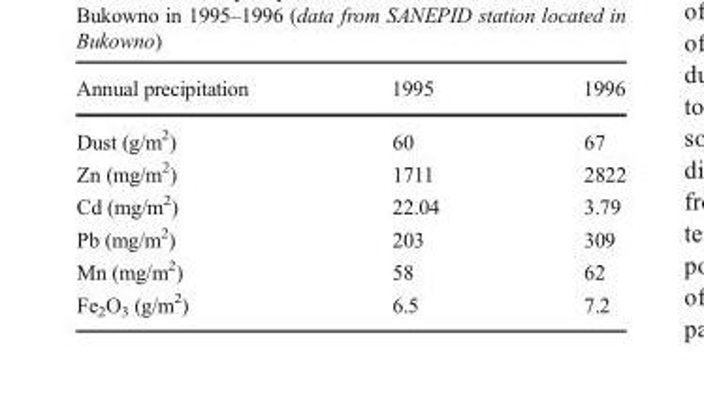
<table><thead><tr><td>Annual precipitation</td><td>1995</td><td>1996</td></tr></thead><tbody><tr><td>Dust (g/m<sup>2</sup>)</td><td>60</td><td>67</td></tr><tr><td>Zn (mg/m<sup>2</sup>)</td><td>1711</td><td>2822</td></tr><tr><td>Cd (mg/m<sup>2</sup>)</td><td>22.04</td><td>3.79</td></tr><tr><td>Pb (mg/m<sup>2</sup>)</td><td>203</td><td>309</td></tr><tr><td>Mn (mg/m<sup>2</sup>)</td><td>58</td><td>62</td></tr><tr><td>Fe<sub>2</sub>O<sub>3</sub> (g/m<sup>2</sup>)</td><td>6.5</td><td>7.2</td></tr></tbody></table>